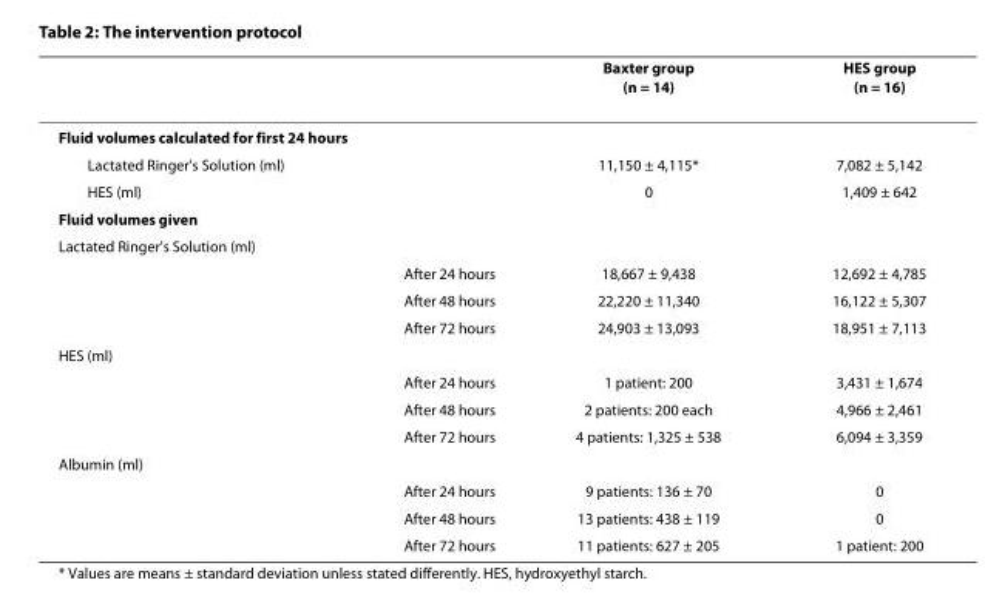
<table><thead><tr><td></td><td>Baxter group (n = 14)</td><td>HES group (n = 16)</td></tr></thead><tbody><tr><td colspan="3">Fluid volumes calculated for first 24 hours</td></tr><tr><td>Lactated Ringer&#x27;s Solution (ml)</td><td>11,150 ± 4,115*</td><td>7,082 ± 5,142</td></tr><tr><td>HES (ml)</td><td>0</td><td>1,409 ± 642</td></tr><tr><td colspan="3">Fluid volumes given</td></tr><tr><td colspan="3">Lactated Ringer&#x27;s Solution (ml)</td></tr><tr><td>After 24 hours</td><td>18,667 ± 9,438</td><td>12,692 ± 4,785</td></tr><tr><td>After 48 hours</td><td>22,220 ± 11,340</td><td>16,122 ± 5,307</td></tr><tr><td>After 72 hours</td><td>24,903 ± 13,093</td><td>18,951 ± 7,113</td></tr><tr><td colspan="3">HES (ml)</td></tr><tr><td>After 24 hours</td><td>1 patient: 200</td><td>3,431 ± 1,674</td></tr><tr><td>After 48 hours</td><td>2 patients: 200 each</td><td>4,966 ± 2,461</td></tr><tr><td>After 72 hours</td><td>4 patients: 1,325 ± 538</td><td>6,094 ± 3,359</td></tr><tr><td colspan="3">Albumin (ml)</td></tr><tr><td>After 24 hours</td><td>9 patients: 136 ± 70</td><td>0</td></tr><tr><td>After 48 hours</td><td>13 patients: 438 ± 119</td><td>0</td></tr><tr><td>After 72 hours</td><td>11 patients: 627 ± 205</td><td>1 patient: 200</td></tr></tbody></table>